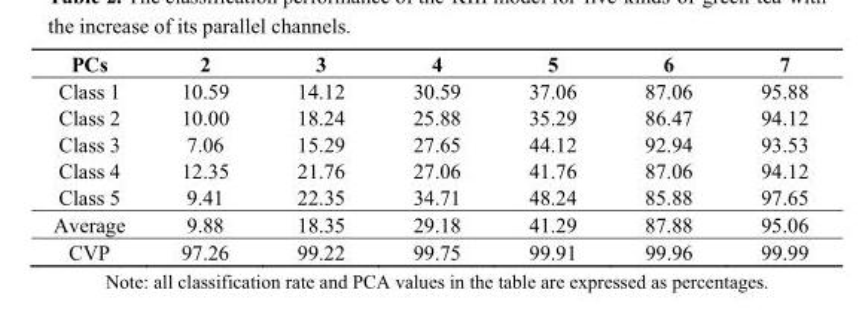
<table><thead><tr><td>PCs</td><td>2</td><td>3</td><td>4</td><td>5</td><td>6</td><td>7</td></tr></thead><tbody><tr><td>Class 1</td><td>10.59</td><td>14.12</td><td>30.59</td><td>37.06</td><td>87.06</td><td>95.88</td></tr><tr><td>Class 2</td><td>10.00</td><td>18.24</td><td>25.88</td><td>35.29</td><td>86.47</td><td>94.12</td></tr><tr><td>Class 3</td><td>7.06</td><td>15.29</td><td>27.65</td><td>44.12</td><td>92.94</td><td>93.53</td></tr><tr><td>Class 4</td><td>12.35</td><td>21.76</td><td>27.06</td><td>41.76</td><td>87.06</td><td>94.12</td></tr><tr><td>Class 5</td><td>9.41</td><td>22.35</td><td>34.71</td><td>48.24</td><td>85.88</td><td>97.65</td></tr><tr><td>Average</td><td>9.88</td><td>18.35</td><td>29.18</td><td>41.29</td><td>87.88</td><td>95.06</td></tr><tr><td>CVP</td><td>97.26</td><td>99.22</td><td>99.75</td><td>99.91</td><td>99.96</td><td>99.99</td></tr></tbody></table>